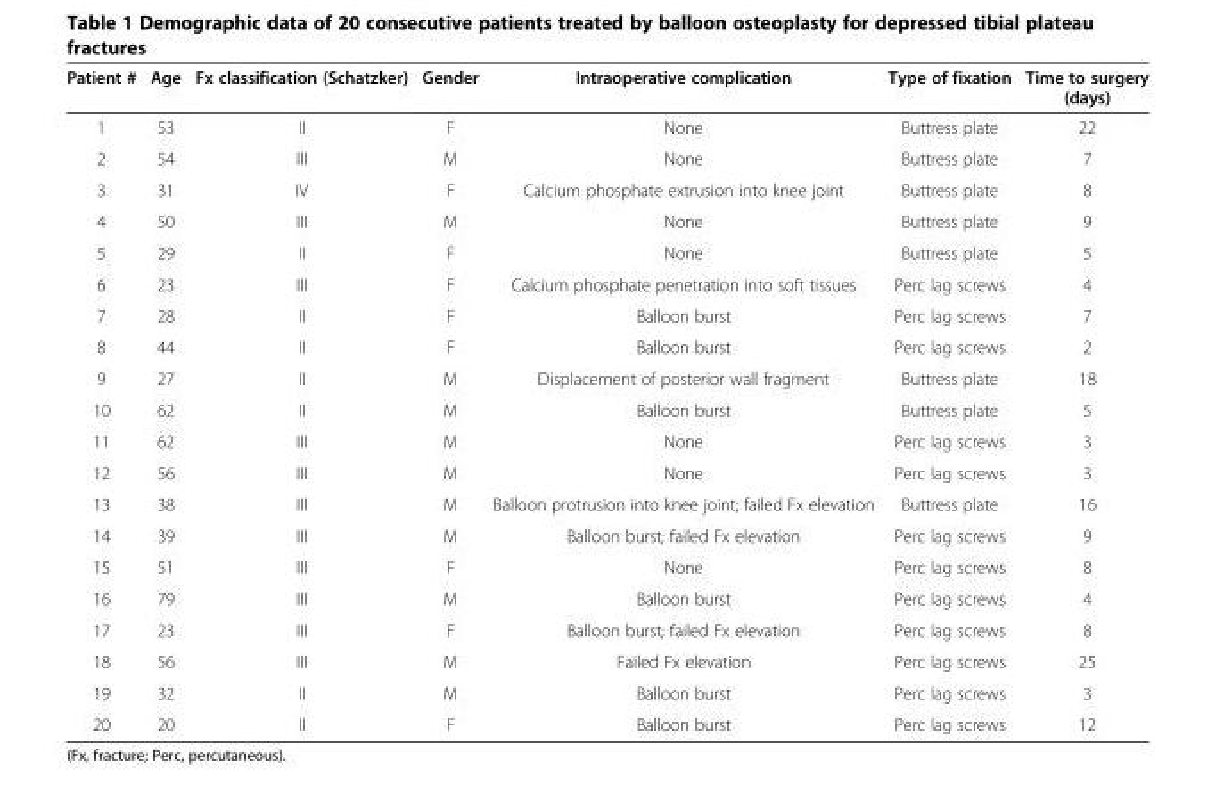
<table><thead><tr><td>Patient #</td><td>Age</td><td>Fx classification (Schatzker)</td><td>Gender</td><td>Intraoperative complication</td><td>Type of fixation</td><td>Time to surgery (days)</td></tr></thead><tbody><tr><td>1</td><td>53</td><td>II</td><td>F</td><td>None</td><td>Buttress plate</td><td>22</td></tr><tr><td>2</td><td>54</td><td>III</td><td>M</td><td>None</td><td>Buttress plate</td><td>7</td></tr><tr><td>3</td><td>31</td><td>IV</td><td>F</td><td>Calcium phosphate extrusion into knee joint</td><td>Buttress plate</td><td>8</td></tr><tr><td>4</td><td>50</td><td>III</td><td>M</td><td>None</td><td>Buttress plate</td><td>9</td></tr><tr><td>5</td><td>29</td><td>II</td><td>F</td><td>None</td><td>Buttress plate</td><td>5</td></tr><tr><td>6</td><td>23</td><td>III</td><td>F</td><td>Calcium phosphate penetration into soft tissues</td><td>Perc lag screws</td><td>4</td></tr><tr><td>7</td><td>28</td><td>II</td><td>F</td><td>Balloon burst</td><td>Perc lag screws</td><td>7</td></tr><tr><td>8</td><td>44</td><td>II</td><td>F</td><td>Balloon burst</td><td>Perc lag screws</td><td>2</td></tr><tr><td>9</td><td>27</td><td>II</td><td>M</td><td>Displacement of posterior wall fragment</td><td>Buttress plate</td><td>18</td></tr><tr><td>10</td><td>62</td><td>II</td><td>M</td><td>Balloon burst</td><td>Buttress plate</td><td>5</td></tr><tr><td>11</td><td>62</td><td>III</td><td>M</td><td>None</td><td>Perc lag screws</td><td>3</td></tr><tr><td>12</td><td>56</td><td>III</td><td>M</td><td>None</td><td>Perc lag screws</td><td>3</td></tr><tr><td>13</td><td>38</td><td>III</td><td>M</td><td>Balloon protrusion into knee joint; failed Fx elevation</td><td>Buttress plate</td><td>16</td></tr><tr><td>14</td><td>39</td><td>III</td><td>M</td><td>Balloon burst; failed Fx elevation</td><td>Perc lag screws</td><td>9</td></tr><tr><td>15</td><td>51</td><td>III</td><td>F</td><td>None</td><td>Perc lag screws</td><td>8</td></tr><tr><td>16</td><td>79</td><td>III</td><td>M</td><td>Balloon burst</td><td>Perc lag screws</td><td>4</td></tr><tr><td>17</td><td>23</td><td>III</td><td>F</td><td>Balloon burst; failed Fx elevation</td><td>Perc lag screws</td><td>8</td></tr><tr><td>18</td><td>56</td><td>III</td><td>M</td><td>Failed Fx elevation</td><td>Perc lag screws</td><td>25</td></tr><tr><td>19</td><td>32</td><td>II</td><td>M</td><td>Balloon burst</td><td>Perc lag screws</td><td>3</td></tr><tr><td>20</td><td>20</td><td>II</td><td>F</td><td>Balloon burst</td><td>Perc lag screws</td><td>12</td></tr></tbody></table>